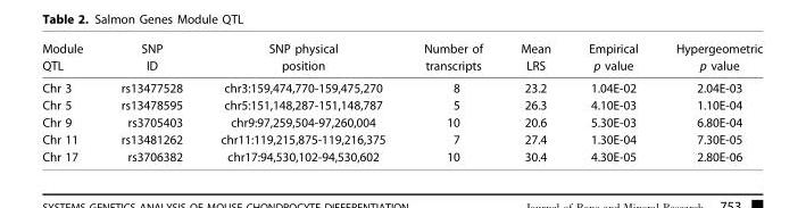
<table><thead><tr><td>Module QTL</td><td>SNP ID</td><td>SNP physical position</td><td>Number of transcripts</td><td>Mean LRS</td><td>Empirical p value</td><td>Hypergeometric p value</td></tr></thead><tbody><tr><td>Chr 3</td><td>rs13477528</td><td>chr3:159,474,770-159,475,270</td><td>8</td><td>23.2</td><td>1.04E-02</td><td>2.04E-03</td></tr><tr><td>Chr 5</td><td>rs13478595</td><td>chr5:151,148,287-151,148,787</td><td>5</td><td>26.3</td><td>4.10E-03</td><td>1.10E-04</td></tr><tr><td>Chr 9</td><td>rs3705403</td><td>chr9:97,259,504-97,260,004</td><td>10</td><td>20.6</td><td>5.30E-03</td><td>6.80E-04</td></tr><tr><td>Chr 11</td><td>rs13481262</td><td>chr11:119,215,875-119,216,375</td><td>7</td><td>27.4</td><td>1.30E-04</td><td>7.30E-05</td></tr><tr><td>Chr 17</td><td>rs3706382</td><td>chr17:94,530,102-94,530,602</td><td>10</td><td>30.4</td><td>4.30E-05</td><td>2.80E-06</td></tr></tbody></table>